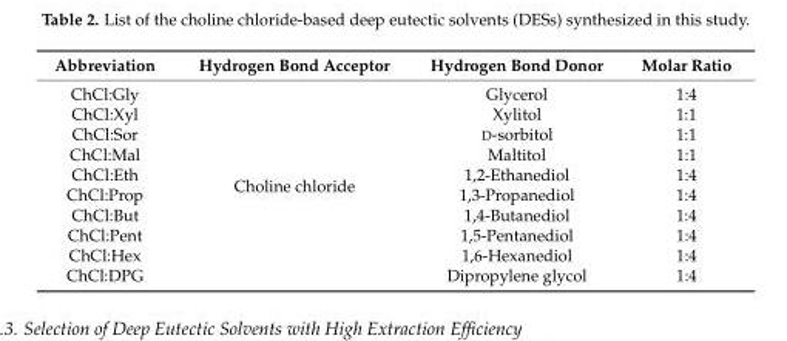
<table><thead><tr><td>Abbreviation</td><td>Hydrogen Bond Acceptor</td><td>Hydrogen Bond Donor</td><td>Molar Ratio</td></tr></thead><tbody><tr><td>ChCl:Gly</td><td rowspan="10">Choline chloride</td><td>Glycerol</td><td>1:4</td></tr><tr><td>ChCl:Xyl</td><td>Xylitol</td><td>1:1</td></tr><tr><td>ChCl:Sor</td><td>D-sorbitol</td><td>1:1</td></tr><tr><td>ChCl:Mal</td><td>Maltitol</td><td>1:1</td></tr><tr><td>ChCl:Eth</td><td>1,2-Ethanediol</td><td>1:4</td></tr><tr><td>ChCl:Prop</td><td>1,3-Propanediol</td><td>1:4</td></tr><tr><td>ChCl:But</td><td>1,4-Butanediol</td><td>1:4</td></tr><tr><td>ChCl:Pent</td><td>1,5-Pentanediol</td><td>1:4</td></tr><tr><td>ChCl:Hex</td><td>1,6-Hexanediol</td><td>1:4</td></tr><tr><td>ChCl:DPG</td><td>Dipropylene glycol</td><td>1:4</td></tr></tbody></table>